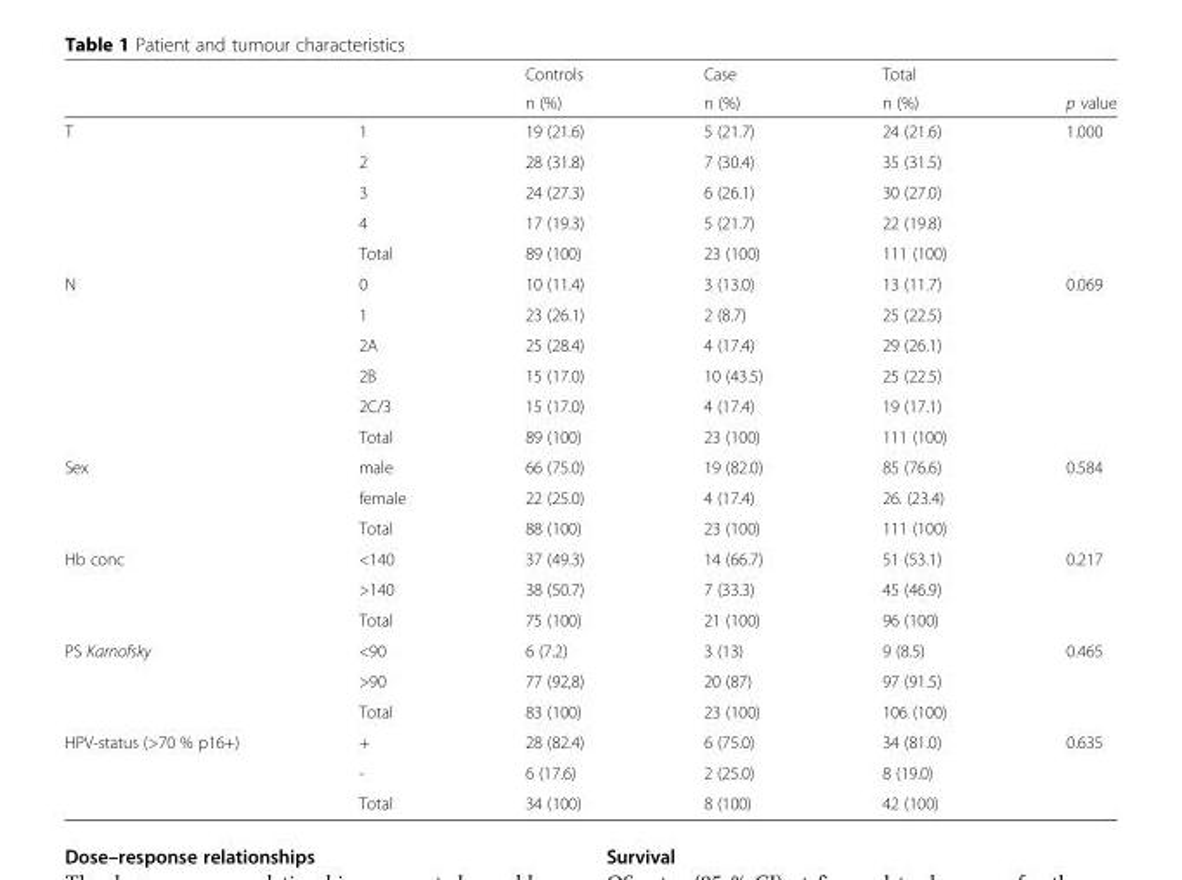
<table><thead><tr><td rowspan="2"></td><td rowspan="2"></td><td rowspan="2">Controls n (%)</td><td rowspan="2">Case n (%)</td><td rowspan="2">Total n (%)</td><td rowspan="2">p value</td></tr><tr></tr></thead><tbody><tr><td rowspan="5">T</td><td>1</td><td>19 (21.6)</td><td>5 (21.7)</td><td>24 (21.6)</td><td rowspan="5">1.000</td></tr><tr><td>2</td><td>28 (31.8)</td><td>7 (30.4)</td><td>35 (31.5)</td></tr><tr><td>3</td><td>24 (27.3)</td><td>6 (26.1)</td><td>30 (27.0)</td></tr><tr><td>4</td><td>17 (19.3)</td><td>5 (21.7)</td><td>22 (19.8)</td></tr><tr><td>Total</td><td>89 (100)</td><td>23 (100)</td><td>111 (100)</td></tr><tr><td rowspan="6">N</td><td>0</td><td>10 (11.4)</td><td>3 (13.0)</td><td>13 (11.7)</td><td rowspan="6">0.069</td></tr><tr><td>1</td><td>23 (26.1)</td><td>2 (8.7)</td><td>25 (22.5)</td></tr><tr><td>2A</td><td>25 (28.4)</td><td>4 (17.4)</td><td>29 (26.1)</td></tr><tr><td>2B</td><td>15 (17.0)</td><td>10 (43.5)</td><td>25 (22.5)</td></tr><tr><td>2C/3</td><td>15 (17.0)</td><td>4 (17.4)</td><td>19 (17.1)</td></tr><tr><td>Total</td><td>89 (100)</td><td>23 (100)</td><td>111 (100)</td></tr><tr><td rowspan="3">Sex</td><td>male</td><td>66 (75.0)</td><td>19 (82.0)</td><td>85 (76.6)</td><td rowspan="3">0.584</td></tr><tr><td>female</td><td>22 (25.0)</td><td>4 (17.4)</td><td>26. (23.4)</td></tr><tr><td>Total</td><td>88 (100)</td><td>23 (100)</td><td>111 (100)</td></tr><tr><td rowspan="3">Hb conc</td><td>&lt;140</td><td>37 (49.3)</td><td>14 (66.7)</td><td>51 (53.1)</td><td rowspan="3">0.217</td></tr><tr><td>&gt;140</td><td>38 (50.7)</td><td>7 (33.3)</td><td>45 (46.9)</td></tr><tr><td>Total</td><td>75 (100)</td><td>21 (100)</td><td>96 (100)</td></tr><tr><td rowspan="3">PS Karnofsky</td><td>&lt;90</td><td>6 (7.2)</td><td>3 (13)</td><td>9 (8.5)</td><td rowspan="3">0.465</td></tr><tr><td>&gt;90</td><td>77 (92,8)</td><td>20 (87)</td><td>97 (91.5)</td></tr><tr><td>Total</td><td>83 (100)</td><td>23 (100)</td><td>106 (100)</td></tr><tr><td rowspan="3">HPV-status (&gt;70 % p16+)</td><td>+</td><td>28 (82.4)</td><td>6 (75.0)</td><td>34 (81.0)</td><td rowspan="3">0.635</td></tr><tr><td>-</td><td>6 (17.6)</td><td>2 (25.0)</td><td>8 (19.0)</td></tr><tr><td>Total</td><td>34 (100)</td><td>8 (100)</td><td>42 (100)</td></tr></tbody></table>